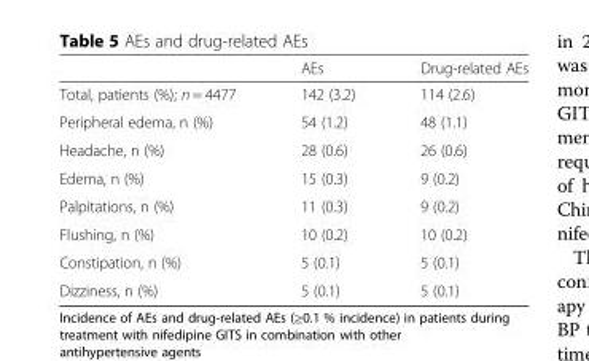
<table><thead><tr><td></td><td>AEs</td><td>Drug-related AEs</td></tr></thead><tbody><tr><td>Total, patients (%); n = 4477</td><td>142 (3.2)</td><td>114 (2.6)</td></tr><tr><td>Peripheral edema, n (%)</td><td>54 (1.2)</td><td>48 (1.1)</td></tr><tr><td>Headache, n (%)</td><td>28 (0.6)</td><td>26 (0.6)</td></tr><tr><td>Edema, n (%)</td><td>15 (0.3)</td><td>9 (0.2)</td></tr><tr><td>Palpitations, n (%)</td><td>11 (0.3)</td><td>9 (0.2)</td></tr><tr><td>Flushing, n (%)</td><td>10 (0.2)</td><td>10 (0.2)</td></tr><tr><td>Constipation, n (%)</td><td>5 (0.1)</td><td>5 (0.1)</td></tr><tr><td>Dizziness, n (%)</td><td>5 (0.1)</td><td>5 (0.1)</td></tr></tbody></table>